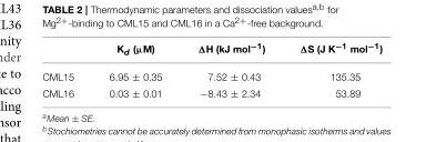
<table><thead><tr><td></td><td>Kd (µM)</td><td>ΔH (kJ mol<sup>−1</sup>)</td><td>ΔS (J K<sup>−1</sup> mol<sup>−1</sup>)</td></tr></thead><tbody><tr><td>CML15</td><td>6.95 ± 0.35</td><td>7.52 ± 0.43</td><td>135.35</td></tr><tr><td>CML16</td><td>0.03 ± 0.01</td><td>−8.43 ± 2.34</td><td>53.89</td></tr></tbody></table>